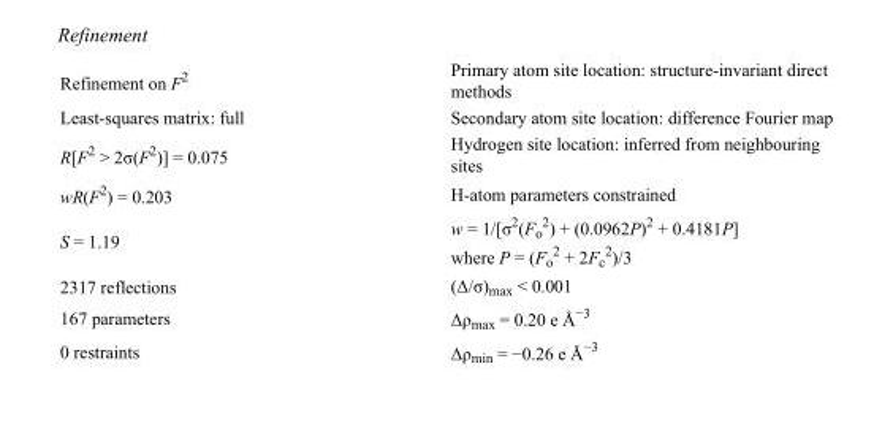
<table><tbody><tr><td>Refinement on F<sup>2</sup></td><td>Primary atom site location: structure-invariant direct methods</td></tr><tr><td>Least-squares matrix: full</td><td>Secondary atom site location: difference Fourier map</td></tr><tr><td>R[F<sup>2</sup> &gt; 2σ(F<sup>2</sup>)] = 0.075</td><td>Hydrogen site location: inferred from neighbouring sites</td></tr><tr><td>wR(F<sup>2</sup>) = 0.203</td><td>H-atom parameters constrained</td></tr><tr><td>S = 1.19</td><td>w = 1/[σ<sup>2</sup>(F<sub>o</sub> <sup>2</sup>) + (0.0962P)<sup>2</sup> + 0.4181P] where P = (F<sub>o</sub> <sup>2</sup> + 2F<sub>c</sub> <sup>2</sup>)/3</td></tr><tr><td>2317 reflections</td><td>(Δ/σ)<sub>max</sub> &lt; 0.001</td></tr><tr><td>167 parameters</td><td>Δρ<sub>max</sub> = 0.20 e Å<sup>−3</sup></td></tr><tr><td>0 restraints</td><td>Δρ<sub>min</sub> = −0.26 e Å<sup>−3</sup></td></tr></tbody></table>